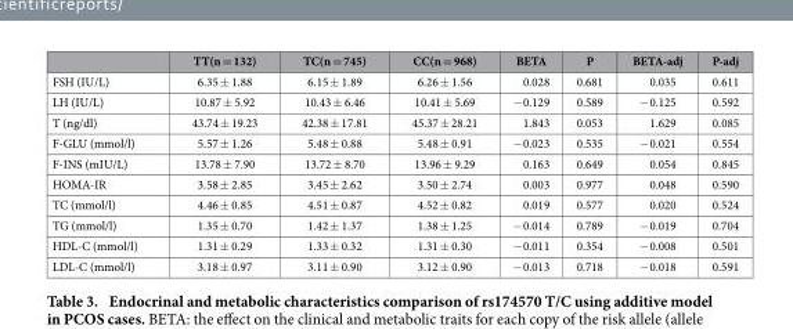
<table><thead><tr><td></td><td>TT(n = 132)</td><td>TC(n = 745)</td><td>CC(n = 968)</td><td>BETA</td><td>P</td><td>BETA-adj</td><td>P-adj</td></tr></thead><tbody><tr><td>FSH (IU/L)</td><td>6.35 ± 1.88</td><td>6.15 ± 1.89</td><td>6.26 ± 1.56</td><td>0.028</td><td>0.681</td><td>0.035</td><td>0.611</td></tr><tr><td>LH (IU/L)</td><td>10.87 ± 5.92</td><td>10.43 ± 6.46</td><td>10.41 ± 5.69</td><td>− 0.129</td><td>0.589</td><td>− 0.125</td><td>0.592</td></tr><tr><td>T (ng/dl)</td><td>43.74 ± 19.23</td><td>42.38 ± 17.81</td><td>45.37 ± 28.21</td><td>1.843</td><td>0.053</td><td>1.629</td><td>0.085</td></tr><tr><td>F-GLU (mmol/l)</td><td>5.57 ± 1.26</td><td>5.48 ± 0.88</td><td>5.48 ± 0.91</td><td>− 0.023</td><td>0.535</td><td>− 0.021</td><td>0.554</td></tr><tr><td>F-INS (mIU/L)</td><td>13.78 ± 7.90</td><td>13.72 ± 8.70</td><td>13.96 ± 9.29</td><td>0.163</td><td>0.649</td><td>0.054</td><td>0.845</td></tr><tr><td>HOMA-IR</td><td>3.58 ± 2.85</td><td>3.45 ± 2.62</td><td>3.50 ± 2.74</td><td>0.003</td><td>0.977</td><td>0.048</td><td>0.590</td></tr><tr><td>TC (mmol/l)</td><td>4.46 ± 0.85</td><td>4.51 ± 0.87</td><td>4.52 ± 0.82</td><td>0.019</td><td>0.577</td><td>0.020</td><td>0.524</td></tr><tr><td>TG (mmol/l)</td><td>1.35 ± 0.70</td><td>1.42 ± 1.37</td><td>1.38 ± 1.25</td><td>− 0.014</td><td>0.789</td><td>− 0.019</td><td>0.704</td></tr><tr><td>HDL-C (mmol/l)</td><td>1.31 ± 0.29</td><td>1.33 ± 0.32</td><td>1.31 ± 0.30</td><td>− 0.011</td><td>0.354</td><td>− 0.008</td><td>0.501</td></tr><tr><td>LDL-C (mmol/l)</td><td>3.18 ± 0.97</td><td>3.11 ± 0.90</td><td>3.12 ± 0.90</td><td>− 0.013</td><td>0.718</td><td>− 0.018</td><td>0.591</td></tr></tbody></table>